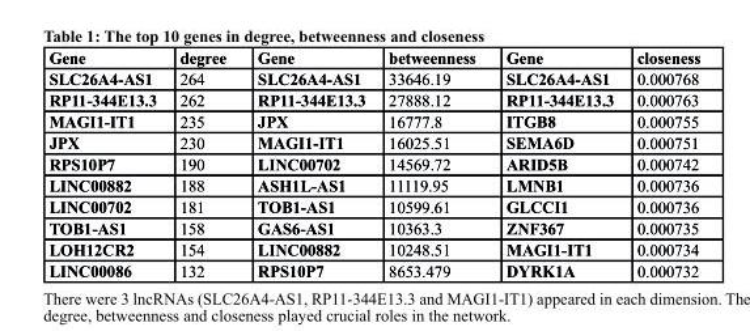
<table><thead><tr><td>Gene</td><td>degree</td><td>Gene</td><td>betweenness</td><td>Gene</td><td>closeness</td></tr></thead><tbody><tr><td>SLC26A4-AS1</td><td>264</td><td>SLC26A4-AS1</td><td>33646.19</td><td>SLC26A4-AS1</td><td>0.000768</td></tr><tr><td>RP11-344E13.3</td><td>262</td><td>RP11-344E13.3</td><td>27888.12</td><td>RP11-344E13.3</td><td>0.000763</td></tr><tr><td>MAGI1-IT1</td><td>235</td><td>JPX</td><td>16777.8</td><td>ItGb8</td><td>0.000755</td></tr><tr><td>JPX</td><td>230</td><td>MAGI1-IT1</td><td>16025.51</td><td>SEMA6D</td><td>0.000751</td></tr><tr><td>RPS10P7</td><td>190</td><td>LINC00702</td><td>14569.72</td><td>ArId5b</td><td>0.000742</td></tr><tr><td>LINC00882</td><td>188</td><td>ASH1L-AS1</td><td>11119.95</td><td>LMNB1</td><td>0.000736</td></tr><tr><td>LINC00702</td><td>181</td><td>TOB1-AS1</td><td>10599.61</td><td>GLCCI1</td><td>0.000736</td></tr><tr><td>TOB1-AS1</td><td>158</td><td>GAS6-AS1</td><td>10363.3</td><td>ZNF367</td><td>0.000735</td></tr><tr><td>LOH12CR2</td><td>154</td><td>LINC00882</td><td>10248.51</td><td>MAGI1-IT1</td><td>0.000734</td></tr><tr><td>LINC00086</td><td>132</td><td>RPS10P7</td><td>8653.479</td><td>DYRK1A</td><td>0.000732</td></tr></tbody></table>